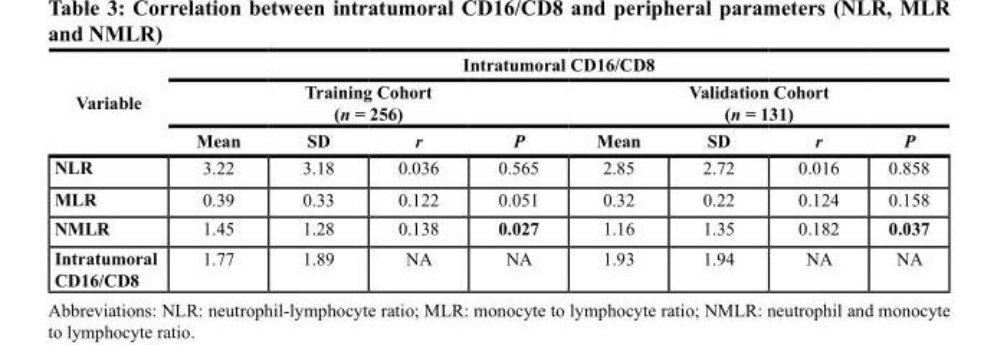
<table><thead><tr><td rowspan="3">Variable</td><td colspan="8">Intratumoral CD16/CD8</td></tr><tr><td colspan="4">Training Cohort (n = 256)</td><td colspan="4">Validation Cohort (n = 131)</td></tr><tr><td>Mean</td><td>SD</td><td>r</td><td>P</td><td>Mean</td><td>SD</td><td>r</td><td>P</td></tr></thead><tbody><tr><td>NLR</td><td>3.22</td><td>3.18</td><td>0.036</td><td>0.565</td><td>2.85</td><td>2.72</td><td>0.016</td><td>0.858</td></tr><tr><td>MLR</td><td>0.39</td><td>0.33</td><td>0.122</td><td>0.051</td><td>0.32</td><td>0.22</td><td>0.124</td><td>0.158</td></tr><tr><td>NMLR</td><td>1.45</td><td>1.28</td><td>0.138</td><td>0.027</td><td>1.16</td><td>1.35</td><td>0.182</td><td>0.037</td></tr><tr><td>Intratumoral CD16/CD8</td><td>1.77</td><td>1.89</td><td>NA</td><td>NA</td><td>1.93</td><td>1.94</td><td>NA</td><td>NA</td></tr></tbody></table>